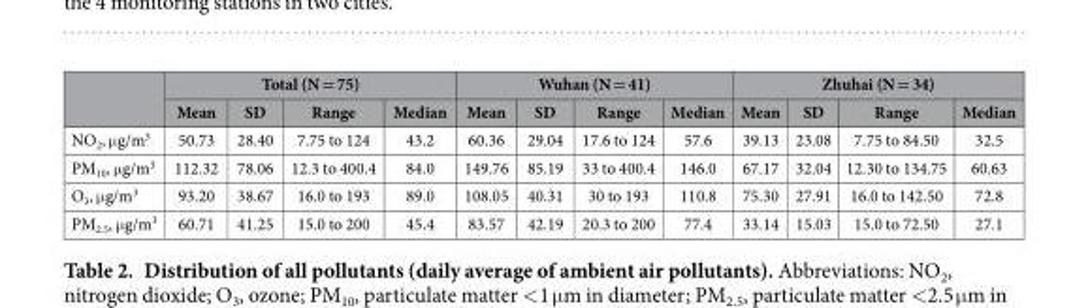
<table><thead><tr><td rowspan="2"></td><td colspan="4">Total (N = 75)</td><td colspan="4">Wuhan (N = 41)</td><td colspan="4">Zhuhai (N = 34)</td></tr><tr><td>Mean</td><td>SD</td><td>Range</td><td>Median</td><td>Mean</td><td>SD</td><td>Range</td><td>Median</td><td>Mean</td><td>SD</td><td>Range</td><td>Median</td></tr></thead><tbody><tr><td>NO<sub>2</sub>, μ g/m<sup>3</sup></td><td>50.73</td><td>28.40</td><td>7.75 to 124</td><td>43.2</td><td>60.36</td><td>29.04</td><td>17.6 to 124</td><td>57.6</td><td>39.13</td><td>23.08</td><td>7.75 to 84.50</td><td>32.5</td></tr><tr><td>PM<sub>10</sub>, μ g/m<sup>3</sup></td><td>112.32</td><td>78.06</td><td>12.3 to 400.4</td><td>84.0</td><td>149.76</td><td>85.19</td><td>33 to 400.4</td><td>146.0</td><td>67.17</td><td>32.04</td><td>12.30 to 134.75</td><td>60.63</td></tr><tr><td>O<sub>3</sub>, μ g/m<sup>3</sup></td><td>93.20</td><td>38.67</td><td>16.0 to 193</td><td>89.0</td><td>108.05</td><td>40.31</td><td>30 to 193</td><td>110.8</td><td>75.30</td><td>27.91</td><td>16.0 to 142.50</td><td>72.8</td></tr><tr><td>PM<sub>2.5</sub>, μ g/m<sup>3</sup></td><td>60.71</td><td>41.25</td><td>15.0 to 200</td><td>45.4</td><td>83.57</td><td>42.19</td><td>20.3 to 200</td><td>77.4</td><td>33.14</td><td>15.03</td><td>15.0 to 72.50</td><td>27.1</td></tr></tbody></table>